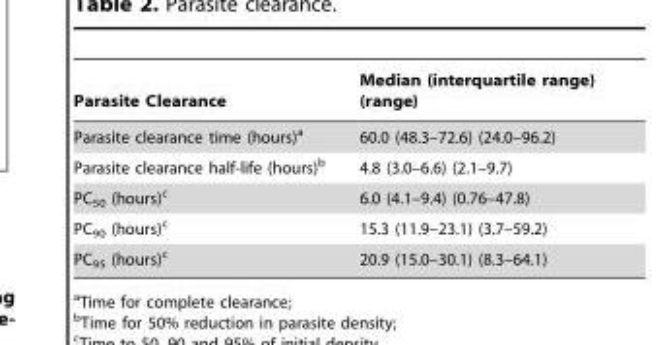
<table><thead><tr><td>Parasite Clearance</td><td>Median (interquartile range) (range)</td></tr></thead><tbody><tr><td>Parasite clearance time (hours)<sup>a</sup></td><td>60.0 (48.3–72.6) (24.0–96.2)</td></tr><tr><td>Parasite clearance half-life (hours)<sup>b</sup></td><td>4.8 (3.0–6.6) (2.1–9.7)</td></tr><tr><td>PC<sub>50</sub> (hours)<sup>c</sup></td><td>6.0 (4.1–9.4) (0.76–47.8)</td></tr><tr><td>PC<sub>90</sub> (hours)<sup>c</sup></td><td>15.3 (11.9–23.1) (3.7–59.2)</td></tr><tr><td>PC<sub>95</sub> (hours)<sup>c</sup></td><td>20.9 (15.0–30.1) (8.3–64.1)</td></tr></tbody></table>